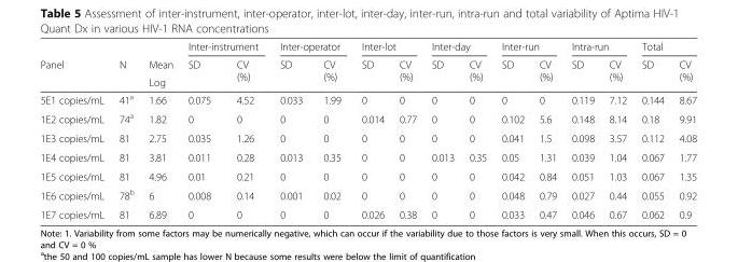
<table><thead><tr><td rowspan="3">Panel</td><td rowspan="3">N</td><td rowspan="3">Mean Log</td><td colspan="2">Inter-instrument</td><td colspan="2">Inter-operator</td><td colspan="2">Inter-lot</td><td colspan="2">Inter-day</td><td colspan="2">Inter-run</td><td colspan="2">Intra-run</td><td colspan="2">Total</td></tr><tr><td rowspan="2">SD</td><td rowspan="2">CV (%)</td><td rowspan="2">SD</td><td rowspan="2">CV (%)</td><td rowspan="2">SD</td><td rowspan="2">CV (%)</td><td rowspan="2">SD</td><td rowspan="2">CV (%)</td><td rowspan="2">SD</td><td rowspan="2">CV (%)</td><td rowspan="2">SD</td><td rowspan="2">CV (%)</td><td rowspan="2">SD</td><td rowspan="2">CV (%)</td></tr><tr></tr></thead><tbody><tr><td>5E1 copies/mL</td><td>41<sup>a</sup></td><td>1.66</td><td>0.075</td><td>4.52</td><td>0.033</td><td>1.99</td><td>0</td><td>0</td><td>0</td><td>0</td><td>0</td><td>0</td><td>0.119</td><td>7.12</td><td>0.144</td><td>8.67</td></tr><tr><td>1E2 copies/mL</td><td>74<sup>a</sup></td><td>1.82</td><td>0</td><td>0</td><td>0</td><td>0</td><td>0.014</td><td>0.77</td><td>0</td><td>0</td><td>0.102</td><td>5.6</td><td>0.148</td><td>8.14</td><td>0.18</td><td>9.91</td></tr><tr><td>1E3 copies/mL</td><td>81</td><td>2.75</td><td>0.035</td><td>1.26</td><td>0</td><td>0</td><td>0</td><td>0</td><td>0</td><td>0</td><td>0.041</td><td>1.5</td><td>0.098</td><td>3.57</td><td>0.112</td><td>4.08</td></tr><tr><td>1E4 copies/mL</td><td>81</td><td>3.81</td><td>0.011</td><td>0.28</td><td>0.013</td><td>0.35</td><td>0</td><td>0</td><td>0.013</td><td>0.35</td><td>0.05</td><td>1.31</td><td>0.039</td><td>1.04</td><td>0.067</td><td>1.77</td></tr><tr><td>1E5 copies/mL</td><td>81</td><td>4.96</td><td>0.01</td><td>0.21</td><td>0</td><td>0</td><td>0</td><td>0</td><td>0</td><td>0</td><td>0.042</td><td>0.84</td><td>0.051</td><td>1.03</td><td>0.067</td><td>1.35</td></tr><tr><td>1E6 copies/mL</td><td>78<sup>b</sup></td><td>6</td><td>0.008</td><td>0.14</td><td>0.001</td><td>0.02</td><td>0</td><td>0</td><td>0</td><td>0</td><td>0.048</td><td>0.79</td><td>0.027</td><td>0.44</td><td>0.055</td><td>0.92</td></tr><tr><td>1E7 copies/mL</td><td>81</td><td>6.89</td><td>0</td><td>0</td><td>0</td><td>0</td><td>0.026</td><td>0.38</td><td>0</td><td>0</td><td>0.033</td><td>0.47</td><td>0.046</td><td>0.67</td><td>0.062</td><td>0.9</td></tr></tbody></table>